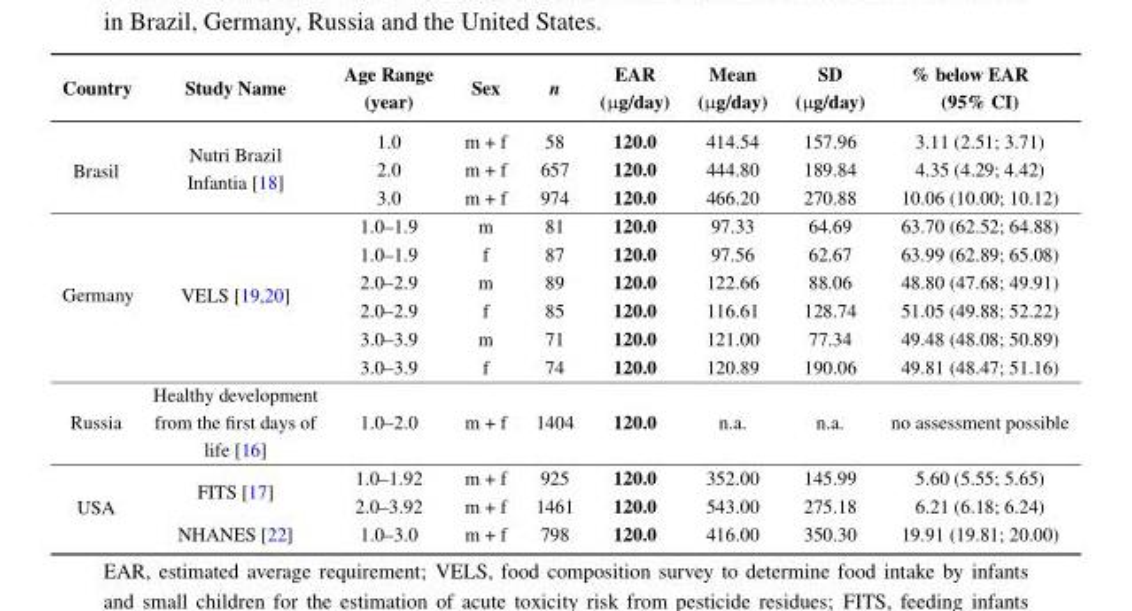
<table><thead><tr><td>Country</td><td>Study Name</td><td>Age Range (year)</td><td>Sex</td><td>n</td><td>EAR (µg/day)</td><td>Mean (µg/day)</td><td>SD (µg/day)</td><td>% below EAR (95% CI)</td></tr></thead><tbody><tr><td rowspan="3">Brasil</td><td rowspan="3">Nutri Brazil Infantia [18]</td><td>1.0</td><td>m + f</td><td>58</td><td>120.0</td><td>414.54</td><td>157.96</td><td>3.11 (2.51; 3.71)</td></tr><tr><td>2.0</td><td>m + f</td><td>657</td><td>120.0</td><td>444.80</td><td>189.84</td><td>4.35 (4.29; 4.42)</td></tr><tr><td>3.0</td><td>m + f</td><td>974</td><td>120.0</td><td>466.20</td><td>270.88</td><td>10.06 (10.00; 10.12)</td></tr><tr><td rowspan="6">Germany</td><td rowspan="6">VELS [19,20]</td><td>1.0–1.9</td><td>m</td><td>81</td><td>120.0</td><td>97.33</td><td>64.69</td><td>63.70 (62.52; 64.88)</td></tr><tr><td>1.0–1.9</td><td>f</td><td>87</td><td>120.0</td><td>97.56</td><td>62.67</td><td>63.99 (62.89; 65.08)</td></tr><tr><td>2.0–2.9</td><td>m</td><td>89</td><td>120.0</td><td>122.66</td><td>88.06</td><td>48.80 (47.68; 49.91)</td></tr><tr><td>2.0–2.9</td><td>f</td><td>85</td><td>120.0</td><td>116.61</td><td>128.74</td><td>51.05 (49.88; 52.22)</td></tr><tr><td>3.0–3.9</td><td>m</td><td>71</td><td>120.0</td><td>121.00</td><td>77.34</td><td>49.48 (48.08; 50.89)</td></tr><tr><td>3.0–3.9</td><td>f</td><td>74</td><td>120.0</td><td>120.89</td><td>190.06</td><td>49.81 (48.47; 51.16)</td></tr><tr><td>Russia</td><td>Healthy development from the first days of life [16]</td><td>1.0–2.0</td><td>m + f</td><td>1404</td><td>120.0</td><td>n.a.</td><td>n.a.</td><td>no assessment possible</td></tr><tr><td rowspan="3">USA</td><td rowspan="2">FITS [17]</td><td>1.0–1.92</td><td>m + f</td><td>925</td><td>120.0</td><td>352.00</td><td>145.99</td><td>5.60 (5.55; 5.65)</td></tr><tr><td>2.0–3.92</td><td>m + f</td><td>1461</td><td>120.0</td><td>543.00</td><td>275.18</td><td>6.21 (6.18; 6.24)</td></tr><tr><td>NHANES [22]</td><td>1.0–3.0</td><td>m + f</td><td>798</td><td>120.0</td><td>416.00</td><td>350.30</td><td>19.91 (19.81; 20.00)</td></tr></tbody></table>